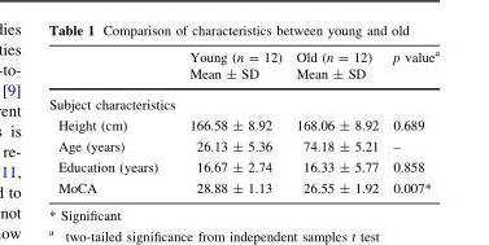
<table><thead><tr><td rowspan="2"></td><td rowspan="2">Young (n = 12) Mean ± SD</td><td rowspan="2">Old (n = 12) Mean ± SD</td><td rowspan="2">p value<sup>a</sup></td></tr><tr></tr></thead><tbody><tr><td colspan="4">Subject characteristics</td></tr><tr><td>Height (cm)</td><td>166.58 ± 8.92</td><td>168.06 ± 8.92</td><td>0.689</td></tr><tr><td>Age (years)</td><td>26.13 ± 5.36</td><td>74.18 ± 5.21</td><td>–</td></tr><tr><td>Education (years)</td><td>16.67 ± 2.74</td><td>16.33 ± 5.77</td><td>0.858</td></tr><tr><td>MoCA</td><td>28.88 ± 1.13</td><td>26.55 ± 1.92</td><td>0.007*</td></tr></tbody></table>